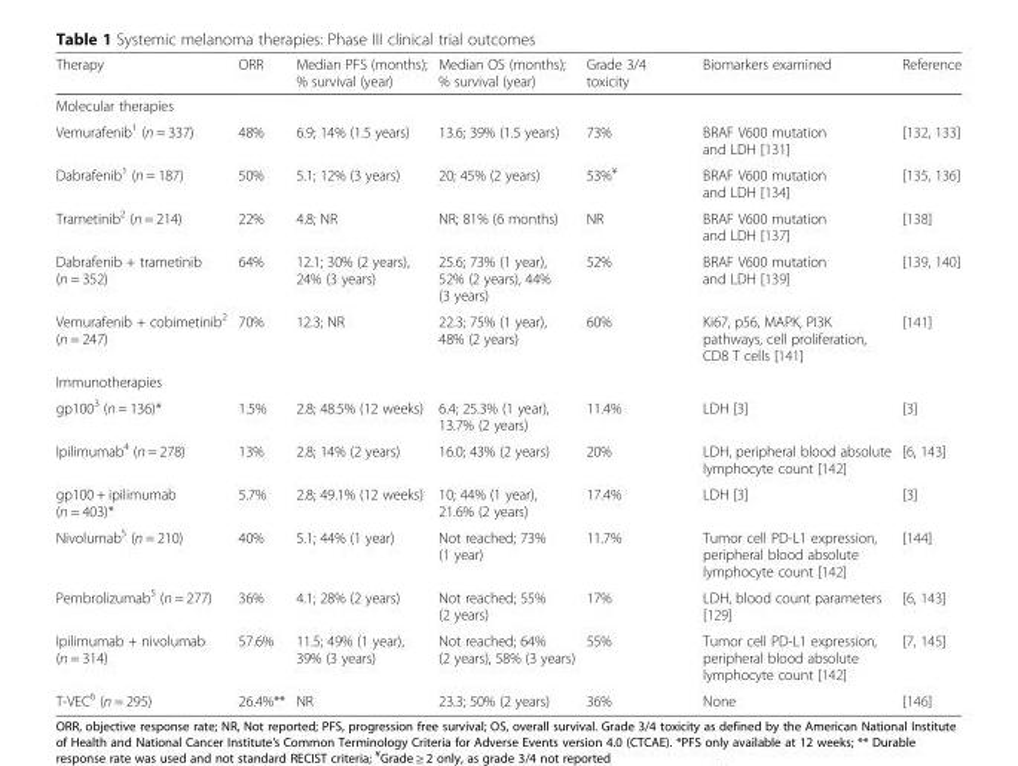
<table><thead><tr><td>Therapy</td><td>ORR</td><td>Median PFS (months); % survival (year)</td><td>Median OS (months); % survival (year)</td><td>Grade 3/4 toxicity</td><td>Biomarkers examined</td><td>Reference</td></tr></thead><tbody><tr><td colspan="7">Molecular therapies</td></tr><tr><td>Vemurafenib<sup>1</sup> (n = 337)</td><td>48%</td><td>6.9; 14% (1.5 years)</td><td>13.6; 39% (1.5 years)</td><td>73%</td><td>BRAF V600 mutation and LDH [131]</td><td>[132, 133]</td></tr><tr><td>Dabrafenib<sup>1</sup> (n = 187)</td><td>50%</td><td>5.1; 12% (3 years)</td><td>20; 45% (2 years)</td><td>53%<sup>¥</sup></td><td>BRAF V600 mutation and LDH [134]</td><td>[135, 136]</td></tr><tr><td>Trametinib<sup>2</sup> (n = 214)</td><td>22%</td><td>4.8; NR</td><td>NR; 81% (6 months)</td><td>NR</td><td>BRAF V600 mutation and LDH [137]</td><td>[138]</td></tr><tr><td>Dabrafenib + trametinib (n = 352)</td><td>64%</td><td>12.1; 30% (2 years), 24% (3 years)</td><td>25.6; 73% (1 year), 52% (2 years), 44% (3 years)</td><td>52%</td><td>BRAF V600 mutation and LDH [139]</td><td>[139, 140]</td></tr><tr><td>Vemurafenib + cobimetinib<sup>2</sup> (n = 247)</td><td>70%</td><td>12.3; NR</td><td>22.3; 75% (1 year), 48% (2 years)</td><td>60%</td><td>Ki67, p56, MAPK, PI3K pathways, cell proliferation, CD8 T cells [141]</td><td>[141]</td></tr><tr><td colspan="7">Immunotherapies</td></tr><tr><td>gp100<sup>3</sup> (n = 136)*</td><td>1.5%</td><td>2.8; 48.5% (12 weeks)</td><td>6.4; 25.3% (1 year), 13.7% (2 years)</td><td>11.4%</td><td>LDH [3]</td><td>[3]</td></tr><tr><td>Ipilimumab<sup>4</sup> (n = 278)</td><td>13%</td><td>2.8; 14% (2 years)</td><td>16.0; 43% (2 years)</td><td>20%</td><td>LDH, peripheral blood absolute lymphocyte count [142]</td><td>[6, 143]</td></tr><tr><td>gp100 + ipilimumab (n = 403)*</td><td>5.7%</td><td>2.8; 49.1% (12 weeks)</td><td>10; 44% (1 year), 21.6% (2 years)</td><td>17.4%</td><td>LDH [3]</td><td>[3]</td></tr><tr><td>Nivolumab<sup>5</sup> (n = 210)</td><td>40%</td><td>5.1; 44% (1 year)</td><td>Not reached; 73% (1 year)</td><td>11.7%</td><td>Tumor cell PD-L1 expression, peripheral blood absolute lymphocyte count [142]</td><td>[144]</td></tr><tr><td>Pembrolizumab<sup>5</sup> (n = 277)</td><td>36%</td><td>4.1; 28% (2 years)</td><td>Not reached; 55% (2 years)</td><td>17%</td><td>LDH, blood count parameters [129]</td><td>[6, 143]</td></tr><tr><td>Ipilimumab + nivolumab (n = 314)</td><td>57.6%</td><td>11.5; 49% (1 year), 39% (3 years)</td><td>Not reached; 64% (2 years), 58% (3 years)</td><td>55%</td><td>Tumor cell PD-L1 expression, peripheral blood absolute lymphocyte count [142]</td><td>[7, 145]</td></tr><tr><td>T-VEC<sup>6</sup> (n = 295)</td><td>26.4%**</td><td>NR</td><td>23.3; 50% (2 years)</td><td>36%</td><td>None</td><td>[146]</td></tr></tbody></table>